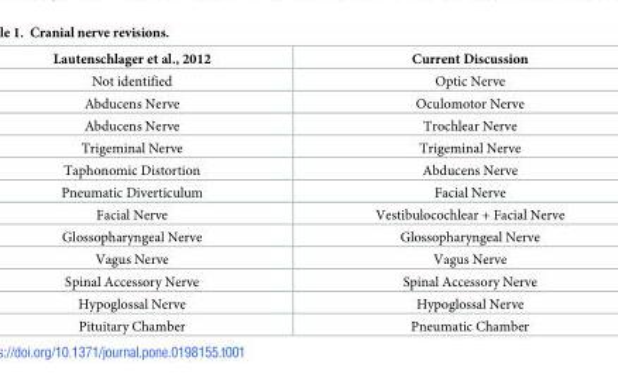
<table><thead><tr><td>Lautenschlager et al., 2012</td><td>Current Discussion</td></tr></thead><tbody><tr><td>Not identified</td><td>Optic Nerve</td></tr><tr><td>Abducens Nerve</td><td>Oculomotor Nerve</td></tr><tr><td>Abducens Nerve</td><td>Trochlear Nerve</td></tr><tr><td>Trigeminal Nerve</td><td>Trigeminal Nerve</td></tr><tr><td>Taphonomic Distortion</td><td>Abducens Nerve</td></tr><tr><td>Pneumatic Diverticulum</td><td>Facial Nerve</td></tr><tr><td>Facial Nerve</td><td>Vestibulocochlear + Facial Nerve</td></tr><tr><td>Glossopharyngeal Nerve</td><td>Glossopharyngeal Nerve</td></tr><tr><td>Vagus Nerve</td><td>Vagus Nerve</td></tr><tr><td>Spinal Accessory Nerve</td><td>Spinal Accessory Nerve</td></tr><tr><td>Hypoglossal Nerve</td><td>Hypoglossal Nerve</td></tr><tr><td>Pituitary Chamber</td><td>Pneumatic Chamber</td></tr></tbody></table>